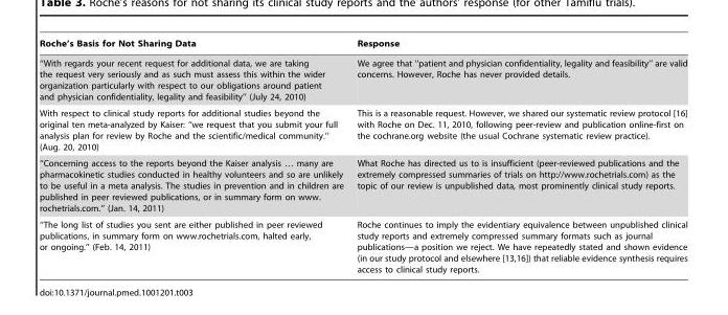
<table><thead><tr><td>Roche’s Basis for Not Sharing Data</td><td>Response</td></tr></thead><tbody><tr><td>‘‘With regards your recent request for additional data, we are taking the request very seriously and as such must assess this within the wider organization particularly with respect to our obligations around patient and physician confidentiality, legality and feasibility’’ (July 24, 2010)</td><td>We agree that ‘‘patient and physician confidentiality, legality and feasibility’’ are valid concerns. However, Roche has never provided details.</td></tr><tr><td>With respect to clinical study reports for additional studies beyond the original ten meta-analyzed by Kaiser: ‘‘we request that you submit your full analysis plan for review by Roche and the scientific/medical community.’’ (Aug. 20, 2010)</td><td>This is a reasonable request. However, we shared our systematic review protocol [16] with Roche on Dec. 11, 2010, following peer-review and publication online-first on the cochrane.org website (the usual Cochrane systematic review practice).</td></tr><tr><td>‘‘Concerning access to the reports beyond the Kaiser analysis … many are pharmacokinetic studies conducted in healthy volunteers and so are unlikely to be useful in a meta analysis. The studies in prevention and in children are published in peer reviewed publications, or in summary form on www. rochetrials.com.’’ (Jan. 14, 2011)</td><td>What Roche has directed us to is insufficient (peer-reviewed publications and the extremely compressed summaries of trials on http://www.rochetrials.com) as the topic of our review is unpublished data, most prominently clinical study reports.</td></tr><tr><td>‘‘The long list of studies you sent are either published in peer reviewed publications, in summary form on www.rochetrials.com, halted early, or ongoing.’’ (Feb. 14, 2011)</td><td>Roche continues to imply the evidentiary equivalence between unpublished clinical study reports and extremely compressed summary formats such as journal publications—a position we reject. We have repeatedly stated and shown evidence (in our study protocol and elsewhere [13,16]) that reliable evidence synthesis requires access to clinical study reports.</td></tr></tbody></table>